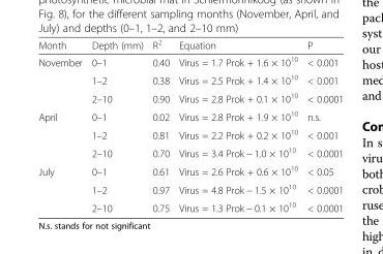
<table><thead><tr><td>Month</td><td>Depth (mm)</td><td>R<sup>2</sup></td><td>Equation</td><td>P</td></tr></thead><tbody><tr><td rowspan="3">November</td><td>0–1</td><td>0.40</td><td>Virus = 1.7 Prok + 1.6 × 10<sup>10</sup></td><td>&lt; 0.001</td></tr><tr><td>1–2</td><td>0.38</td><td>Virus = 2.5 Prok + 1.4 × 10<sup>10</sup></td><td>&lt; 0.001</td></tr><tr><td>2–10</td><td>0.90</td><td>Virus = 2.8 Prok + 0.1 × 10<sup>10</sup></td><td>&lt; 0.0001</td></tr><tr><td rowspan="3">April</td><td>0–1</td><td>0.02</td><td>Virus = 2.8 Prok + 1.9 × 10<sup>10</sup></td><td>n.s.</td></tr><tr><td>1–2</td><td>0.81</td><td>Virus = 2.2 Prok + 0.2 × 10<sup>10</sup></td><td>&lt; 0.001</td></tr><tr><td>2–10</td><td>0.70</td><td>Virus = 3.4 Prok − 1.0 × 10<sup>10</sup></td><td>&lt; 0.0001</td></tr><tr><td rowspan="3">July</td><td>0–1</td><td>0.61</td><td>Virus = 2.6 Prok + 0.6 × 10<sup>10</sup></td><td>&lt; 0.05</td></tr><tr><td>1–2</td><td>0.97</td><td>Virus = 4.8 Prok − 1.5 × 10<sup>10</sup></td><td>&lt; 0.0001</td></tr><tr><td>2–10</td><td>0.75</td><td>Virus = 1.3 Prok − 0.1 × 10<sup>10</sup></td><td>&lt; 0.0001</td></tr></tbody></table>